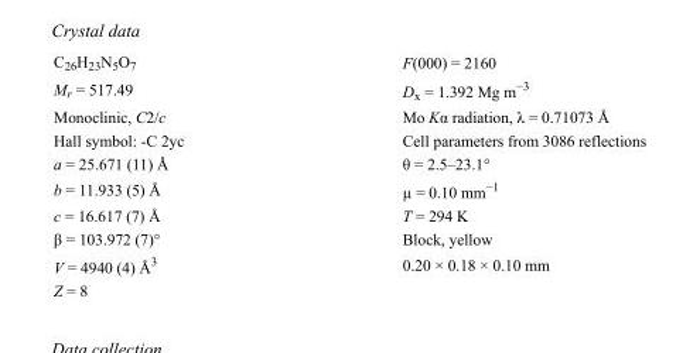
<table><tbody><tr><td>C<sub>26</sub>H<sub>23</sub>N<sub>5</sub>O<sub>7</sub></td><td>F(000) = 2160</td></tr><tr><td>M<sub>r</sub> = 517.49</td><td>D<sub>x</sub> = 1.392 Mg m<sup>−3</sup></td></tr><tr><td>Monoclinic, C2/c</td><td>Mo Kα radiation, λ = 0.71073 Å</td></tr><tr><td>Hall symbol: -C 2yc</td><td>Cell parameters from 3086 reflections</td></tr><tr><td>a = 25.671 (11) Å</td><td>θ = 2.5–23.1°</td></tr><tr><td>b = 11.933 (5) Å</td><td>µ = 0.10 mm<sup>−1</sup></td></tr><tr><td>c = 16.617 (7) Å</td><td>T = 294 K</td></tr><tr><td>β = 103.972 (7)°</td><td>Block, yellow</td></tr><tr><td>V = 4940 (4) Å<sup>3</sup></td><td>0.20 × 0.18 × 0.10 mm</td></tr><tr><td>Z = 8</td><td></td></tr></tbody></table>